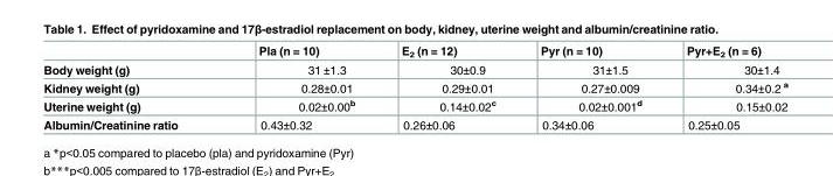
<table><thead><tr><td></td><td>Pla (n = 10)</td><td>E<sub>2</sub> (n = 12)</td><td>Pyr (n = 10)</td><td>Pyr+E<sub>2</sub> (n = 6)</td></tr></thead><tbody><tr><td>Body weight (g)</td><td>31 ±1.3</td><td>30±0.9</td><td>31±1.5</td><td>30±1.4</td></tr><tr><td>Kidney weight (g)</td><td>0.28±0.01</td><td>0.29±0.01</td><td>0.27±0.009</td><td>0.34±0.2 <sup>a</sup></td></tr><tr><td>Uterine weight (g)</td><td>0.02±0.00<sup>b</sup></td><td>0.14±0.02<sup>c</sup></td><td>0.02±0.001<sup>d</sup></td><td>0.15±0.02</td></tr><tr><td>Albumin/Creatinine ratio</td><td>0.43±0.32</td><td>0.26±0.06</td><td>0.34±0.06</td><td>0.25±0.05</td></tr></tbody></table>